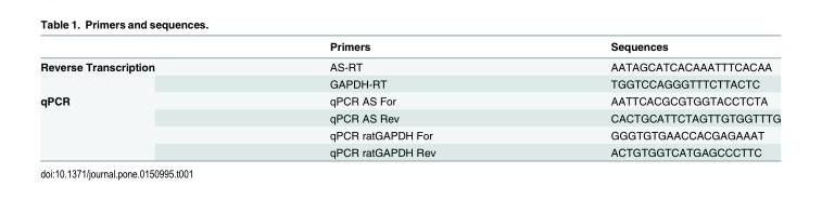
<table><thead><tr><td></td><td>Primers</td><td>Sequences</td></tr></thead><tbody><tr><td rowspan="2">Reverse Transcription</td><td>AS-RT</td><td>AATAGCATCACAAATTTCACAA</td></tr><tr><td>GAPDH-RT</td><td>TGGTCCAGGGTTTCTTACTC</td></tr><tr><td rowspan="4">qPCR</td><td>qPCR AS For</td><td>AATTCACGCGTGGTACCTCTA</td></tr><tr><td>qPCR AS Rev</td><td>CACTGCATTCTAGTTGTGGTTTG</td></tr><tr><td>qPCR ratGAPDH For</td><td>GGGTGTGAACCACGAGAAAT</td></tr><tr><td>qPCR ratGAPDH Rev</td><td>ACTGTGGTCATGAGCCCTTC</td></tr></tbody></table>